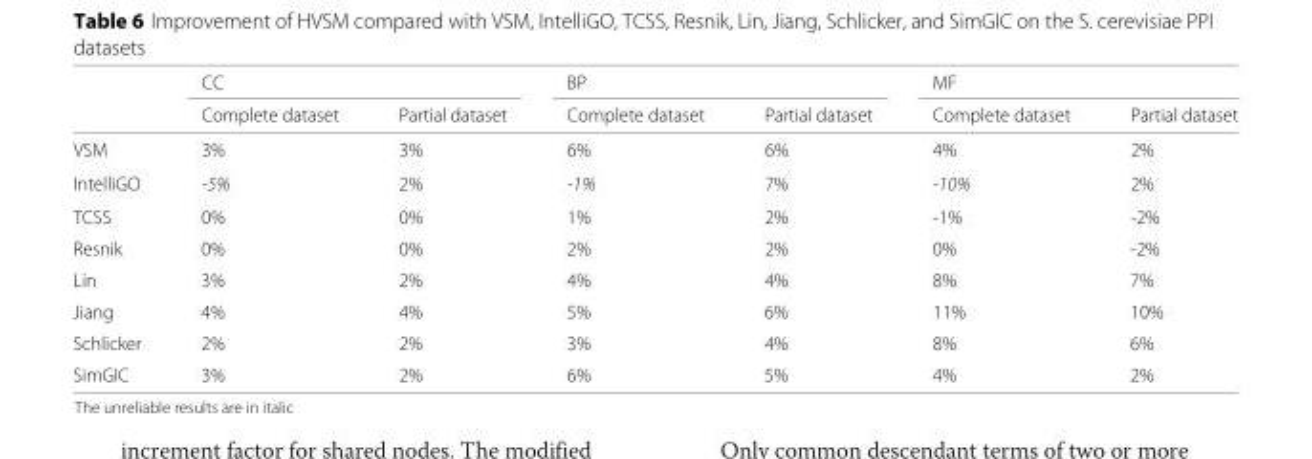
<table><thead><tr><td rowspan="2"></td><td colspan="2">CC</td><td colspan="2">BP</td><td colspan="2">MF</td></tr><tr><td>Complete dataset</td><td>Partial dataset</td><td>Complete dataset</td><td>Partial dataset</td><td>Complete dataset</td><td>Partial dataset</td></tr></thead><tbody><tr><td>VSM</td><td>3%</td><td>3%</td><td>6%</td><td>6%</td><td>4%</td><td>2%</td></tr><tr><td>IntelliGO</td><td>-5%</td><td>2%</td><td>-1%</td><td>7%</td><td>-10%</td><td>2%</td></tr><tr><td>TCSS</td><td>0%</td><td>0%</td><td>1%</td><td>2%</td><td>-1%</td><td>-2%</td></tr><tr><td>Resnik</td><td>0%</td><td>0%</td><td>2%</td><td>2%</td><td>0%</td><td>-2%</td></tr><tr><td>Lin</td><td>3%</td><td>2%</td><td>4%</td><td>4%</td><td>8%</td><td>7%</td></tr><tr><td>Jiang</td><td>4%</td><td>4%</td><td>5%</td><td>6%</td><td>11%</td><td>10%</td></tr><tr><td>Schlicker</td><td>2%</td><td>2%</td><td>3%</td><td>4%</td><td>8%</td><td>6%</td></tr><tr><td>SimGIC</td><td>3%</td><td>2%</td><td>6%</td><td>5%</td><td>4%</td><td>2%</td></tr></tbody></table>